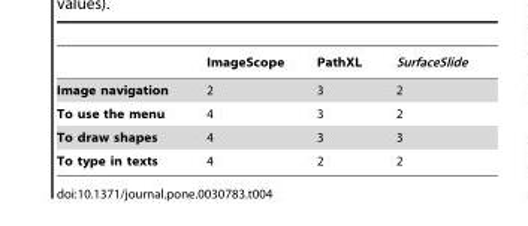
<table><thead><tr><td></td><td>ImageScope</td><td>PathXL</td><td>SurfaceSlide</td></tr></thead><tbody><tr><td>Image navigation</td><td>2</td><td>3</td><td>2</td></tr><tr><td>To use the menu</td><td>4</td><td>3</td><td>2</td></tr><tr><td>To draw shapes</td><td>4</td><td>3</td><td>3</td></tr><tr><td>To type in texts</td><td>4</td><td>2</td><td>2</td></tr></tbody></table>